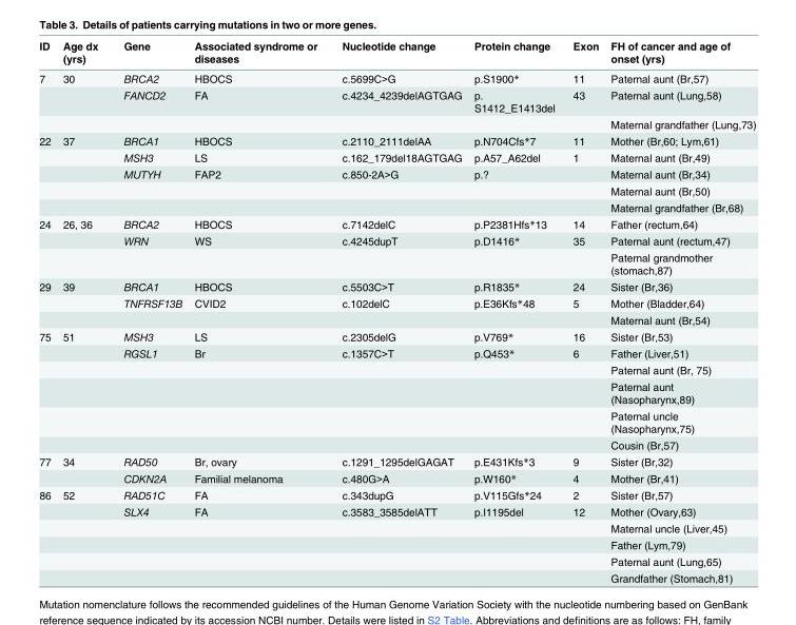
<table><thead><tr><td>ID</td><td>Age dx (yrs)</td><td>Gene</td><td>Associated syndrome or diseases</td><td>Nucleotide change</td><td>Protein change</td><td>Exon</td><td>FH of cancer and age of onset (yrs)</td></tr></thead><tbody><tr><td rowspan="3">7</td><td>30</td><td>BRCA2</td><td>HBOCS</td><td>c.5699C&gt;G</td><td>p.S1900*</td><td>11</td><td>Paternal aunt (Br,57)</td></tr><tr><td></td><td>FANCD2</td><td>FA</td><td>c.4234_4239delAGTGAG</td><td>p. S1412_E1413del</td><td>43</td><td>Paternal aunt (Lung,58)</td></tr><tr><td></td><td></td><td></td><td></td><td></td><td></td><td>Maternal grandfather (Lung,73)</td></tr><tr><td rowspan="5">22</td><td>37</td><td>BRCA1</td><td>HBOCS</td><td>c.2110_2111delAA</td><td>p.N704Cfs*7</td><td>11</td><td>Mother (Br,60; Lym,61)</td></tr><tr><td></td><td>MSH3</td><td>LS</td><td>c.162_179del18AGTGAG</td><td>p.A57_A62del</td><td>1</td><td>Maternal aunt (Br,49)</td></tr><tr><td></td><td>MUTYH</td><td>FAP2</td><td>c.850-2A&gt;G</td><td>p.?</td><td></td><td>Maternal aunt (Br,34)</td></tr><tr><td></td><td></td><td></td><td></td><td></td><td></td><td>Maternal aunt (Br,50)</td></tr><tr><td></td><td></td><td></td><td></td><td></td><td></td><td>Maternal grandfather (Br,68)</td></tr><tr><td rowspan="3">24</td><td>26, 36</td><td>BRCA2</td><td>HBOCS</td><td>c.7142delC</td><td>p.P2381Hfs*13</td><td>14</td><td>Father (rectum,64)</td></tr><tr><td></td><td>WRN</td><td>WS</td><td>c.4245dupT</td><td>p.D1416*</td><td>35</td><td>Paternal aunt (rectum,47)</td></tr><tr><td></td><td></td><td></td><td></td><td></td><td></td><td>Paternal grandmother (stomach,87)</td></tr><tr><td rowspan="3">29</td><td>39</td><td>BRCA1</td><td>HBOCS</td><td>c.5503C&gt;T</td><td>p.R1835*</td><td>24</td><td>Sister (Br,36)</td></tr><tr><td></td><td>TNFRSF13B</td><td>CVID2</td><td>c.102delC</td><td>p.E36Kfs*48</td><td>5</td><td>Mother (Bladder,64)</td></tr><tr><td></td><td></td><td></td><td></td><td></td><td></td><td>Maternal aunt (Br,54)</td></tr><tr><td rowspan="6">75</td><td>51</td><td>MSH3</td><td>LS</td><td>c.2305delG</td><td>p.V769*</td><td>16</td><td>Sister (Br,53)</td></tr><tr><td></td><td>RGSL1</td><td>Br</td><td>c.1357C&gt;T</td><td>p.Q453*</td><td>6</td><td>Father (Liver,51)</td></tr><tr><td></td><td></td><td></td><td></td><td></td><td></td><td>Paternal aunt (Br, 75)</td></tr><tr><td></td><td></td><td></td><td></td><td></td><td></td><td>Paternal aunt (Nasopharynx,89)</td></tr><tr><td></td><td></td><td></td><td></td><td></td><td></td><td>Paternal uncle (Nasopharynx,75)</td></tr><tr><td></td><td></td><td></td><td></td><td></td><td></td><td>Cousin (Br,57)</td></tr><tr><td rowspan="2">77</td><td>34</td><td>RAD50</td><td>Br, ovary</td><td>c.1291_1295delGAGAT</td><td>p.E431Kfs*3</td><td>9</td><td>Sister (Br,32)</td></tr><tr><td></td><td>CDKN2A</td><td>Familial melanoma</td><td>c.480G&gt;A</td><td>p.W160*</td><td>4</td><td>Mother (Br,41)</td></tr><tr><td rowspan="6">86</td><td>52</td><td>RAD51C</td><td>FA</td><td>c.343dupG</td><td>p.V115Gfs*24</td><td>2</td><td>Sister (Br,57)</td></tr><tr><td></td><td>SLX4</td><td>FA</td><td>c.3583_3585delATT</td><td>p.I1195del</td><td>12</td><td>Mother (Ovary,63)</td></tr><tr><td></td><td></td><td></td><td></td><td></td><td></td><td>Maternal uncle (Liver,45)</td></tr><tr><td></td><td></td><td></td><td></td><td></td><td></td><td>Father (Lym,79)</td></tr><tr><td></td><td></td><td></td><td></td><td></td><td></td><td>Paternal aunt (Lung,65)</td></tr><tr><td></td><td></td><td></td><td></td><td></td><td></td><td>Grandfather (Stomach,81)</td></tr></tbody></table>